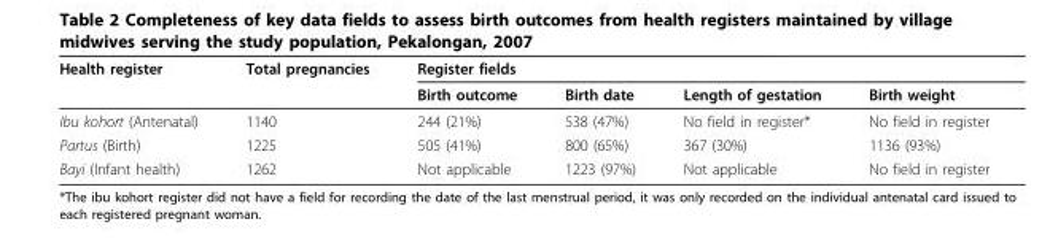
<table><thead><tr><td rowspan="2">Health register</td><td rowspan="2">Total pregnancies</td><td colspan="4">Register fields</td></tr><tr><td>Birth outcome</td><td>Birth date</td><td>Length of gestation</td><td>Birth weight</td></tr></thead><tbody><tr><td>Ibu kohort (Antenatal)</td><td>1140</td><td>244 (21%)</td><td>538 (47%)</td><td>No field in register*</td><td>No field in register</td></tr><tr><td>Partus (Birth)</td><td>1225</td><td>505 (41%)</td><td>800 (65%)</td><td>367 (30%)</td><td>1136 (93%)</td></tr><tr><td>Bayi (Infant health)</td><td>1262</td><td>Not applicable</td><td>1223 (97%)</td><td>Not applicable</td><td>No field in register</td></tr></tbody></table>